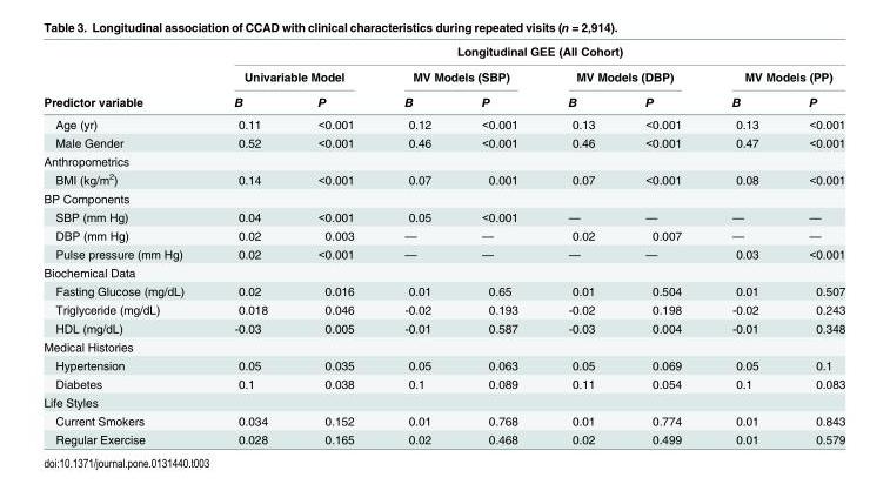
<table><thead><tr><td rowspan="3">Predictor variable</td><td colspan="8">Longitudinal GEE (All Cohort)</td></tr><tr><td colspan="2">Univariable Model</td><td colspan="2">MV Models (SBP)</td><td colspan="2">MV Models (DBP)</td><td colspan="2">MV Models (PP)</td></tr><tr><td>B</td><td>P</td><td>B</td><td>P</td><td>B</td><td>P</td><td>B</td><td>P</td></tr></thead><tbody><tr><td>Age (yr)</td><td>0.11</td><td>&lt;0.001</td><td>0.12</td><td>&lt;0.001</td><td>0.13</td><td>&lt;0.001</td><td>0.13</td><td>&lt;0.001</td></tr><tr><td>Male Gender</td><td>0.52</td><td>&lt;0.001</td><td>0.46</td><td>&lt;0.001</td><td>0.46</td><td>&lt;0.001</td><td>0.47</td><td>&lt;0.001</td></tr><tr><td colspan="9">Anthropometrics</td></tr><tr><td>BMI (kg/m<sup>2</sup>)</td><td>0.14</td><td>&lt;0.001</td><td>0.07</td><td>0.001</td><td>0.07</td><td>&lt;0.001</td><td>0.08</td><td>&lt;0.001</td></tr><tr><td colspan="9">BP Components</td></tr><tr><td>SBP (mm Hg)</td><td>0.04</td><td>&lt;0.001</td><td>0.05</td><td>&lt;0.001</td><td>—</td><td>—</td><td>—</td><td>—</td></tr><tr><td>DBP (mm Hg)</td><td>0.02</td><td>0.003</td><td>—</td><td>—</td><td>0.02</td><td>0.007</td><td>—</td><td>—</td></tr><tr><td>Pulse pressure (mm Hg)</td><td>0.02</td><td>&lt;0.001</td><td>—</td><td>—</td><td>—</td><td>—</td><td>0.03</td><td>&lt;0.001</td></tr><tr><td colspan="9">Biochemical Data</td></tr><tr><td>Fasting Glucose (mg/dL)</td><td>0.02</td><td>0.016</td><td>0.01</td><td>0.65</td><td>0.01</td><td>0.504</td><td>0.01</td><td>0.507</td></tr><tr><td>Triglyceride (mg/dL)</td><td>0.018</td><td>0.046</td><td>-0.02</td><td>0.193</td><td>-0.02</td><td>0.198</td><td>-0.02</td><td>0.243</td></tr><tr><td>HDL (mg/dL)</td><td>-0.03</td><td>0.005</td><td>-0.01</td><td>0.587</td><td>-0.03</td><td>0.004</td><td>-0.01</td><td>0.348</td></tr><tr><td colspan="9">Medical Histories</td></tr><tr><td>Hypertension</td><td>0.05</td><td>0.035</td><td>0.05</td><td>0.063</td><td>0.05</td><td>0.069</td><td>0.05</td><td>0.1</td></tr><tr><td>Diabetes</td><td>0.1</td><td>0.038</td><td>0.1</td><td>0.089</td><td>0.11</td><td>0.054</td><td>0.1</td><td>0.083</td></tr><tr><td colspan="9">Life Styles</td></tr><tr><td>Current Smokers</td><td>0.034</td><td>0.152</td><td>0.01</td><td>0.768</td><td>0.01</td><td>0.774</td><td>0.01</td><td>0.843</td></tr><tr><td>Regular Exercise</td><td>0.028</td><td>0.165</td><td>0.02</td><td>0.468</td><td>0.02</td><td>0.499</td><td>0.01</td><td>0.579</td></tr></tbody></table>